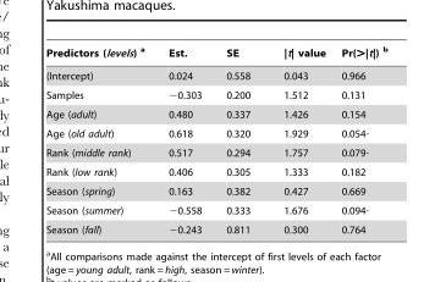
<table><thead><tr><td>Predictors (levels) a</td><td>Est.</td><td>SE</td><td>|t| value</td><td>Pr(&gt;|t|) b</td></tr></thead><tbody><tr><td>(Intercept)</td><td>0.024</td><td>0.558</td><td>0.043</td><td>0.966</td></tr><tr><td>Samples</td><td>−0.303</td><td>0.200</td><td>1.512</td><td>0.131</td></tr><tr><td>Age (adult)</td><td>0.480</td><td>0.337</td><td>1.426</td><td>0.154</td></tr><tr><td>Age (old adult)</td><td>0.618</td><td>0.320</td><td>1.929</td><td>0.054·</td></tr><tr><td>Rank (middle rank)</td><td>0.517</td><td>0.294</td><td>1.757</td><td>0.079·</td></tr><tr><td>Rank (low rank)</td><td>0.406</td><td>0.305</td><td>1.333</td><td>0.182</td></tr><tr><td>Season (spring)</td><td>0.163</td><td>0.382</td><td>0.427</td><td>0.669</td></tr><tr><td>Season (summer)</td><td>−0.558</td><td>0.333</td><td>1.676</td><td>0.094·</td></tr><tr><td>Season (fall)</td><td>−0.243</td><td>0.811</td><td>0.300</td><td>0.764</td></tr></tbody></table>